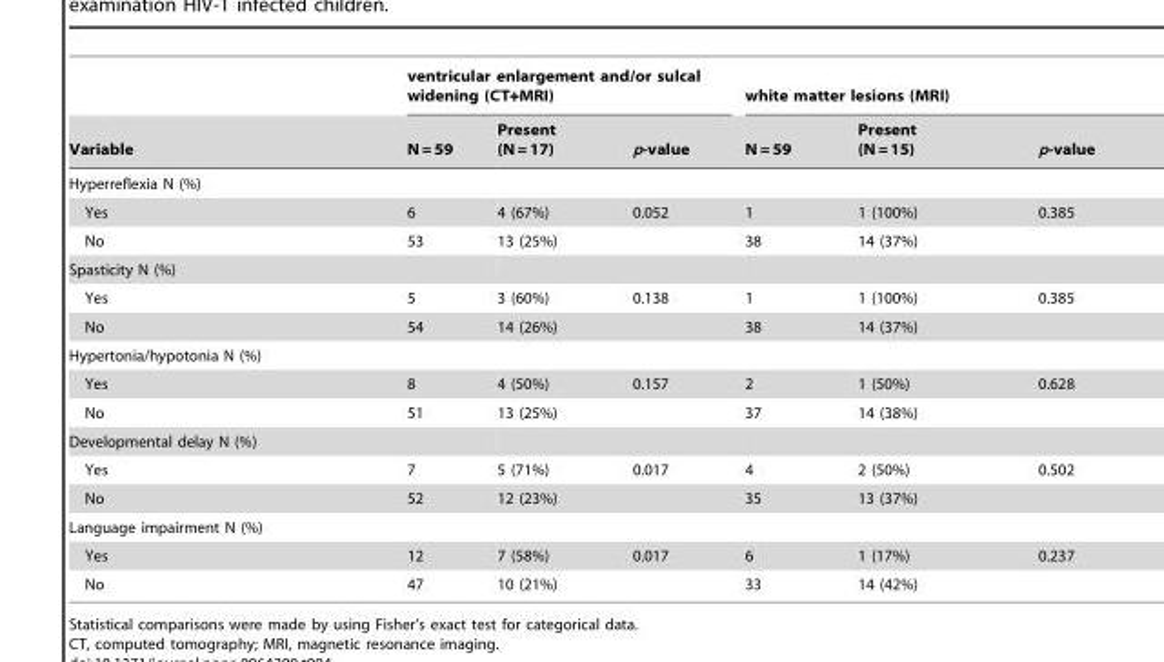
<table><thead><tr><td rowspan="2">Variable</td><td colspan="3">ventricular enlargement and/or sulcal widening (CT+MRI)</td><td colspan="3">white matter lesions (MRI)</td></tr><tr><td>N = 59</td><td>Present (N = 17)</td><td>p-value</td><td>N = 59</td><td>Present (N = 15)</td><td>p-value</td></tr></thead><tbody><tr><td colspan="7">Hyperreflexia N (%)</td></tr><tr><td>Yes</td><td>6</td><td>4 (67%)</td><td>0.052</td><td>1</td><td>1 (100%)</td><td>0.385</td></tr><tr><td>No</td><td>53</td><td>13 (25%)</td><td></td><td>38</td><td>14 (37%)</td><td></td></tr><tr><td colspan="7">Spasticity N (%)</td></tr><tr><td>Yes</td><td>5</td><td>3 (60%)</td><td>0.138</td><td>1</td><td>1 (100%)</td><td>0.385</td></tr><tr><td>No</td><td>54</td><td>14 (26%)</td><td></td><td>38</td><td>14 (37%)</td><td></td></tr><tr><td colspan="7">Hypertonia/hypotonia N (%)</td></tr><tr><td>Yes</td><td>8</td><td>4 (50%)</td><td>0.157</td><td>2</td><td>1 (50%)</td><td>0.628</td></tr><tr><td>No</td><td>51</td><td>13 (25%)</td><td></td><td>37</td><td>14 (38%)</td><td></td></tr><tr><td colspan="7">Developmental delay N (%)</td></tr><tr><td>Yes</td><td>7</td><td>5 (71%)</td><td>0.017</td><td>4</td><td>2 (50%)</td><td>0.502</td></tr><tr><td>No</td><td>52</td><td>12 (23%)</td><td></td><td>35</td><td>13 (37%)</td><td></td></tr><tr><td colspan="7">Language impairment N (%)</td></tr><tr><td>Yes</td><td>12</td><td>7 (58%)</td><td>0.017</td><td>6</td><td>1 (17%)</td><td>0.237</td></tr><tr><td>No</td><td>47</td><td>10 (21%)</td><td></td><td>33</td><td>14 (42%)</td><td></td></tr></tbody></table>